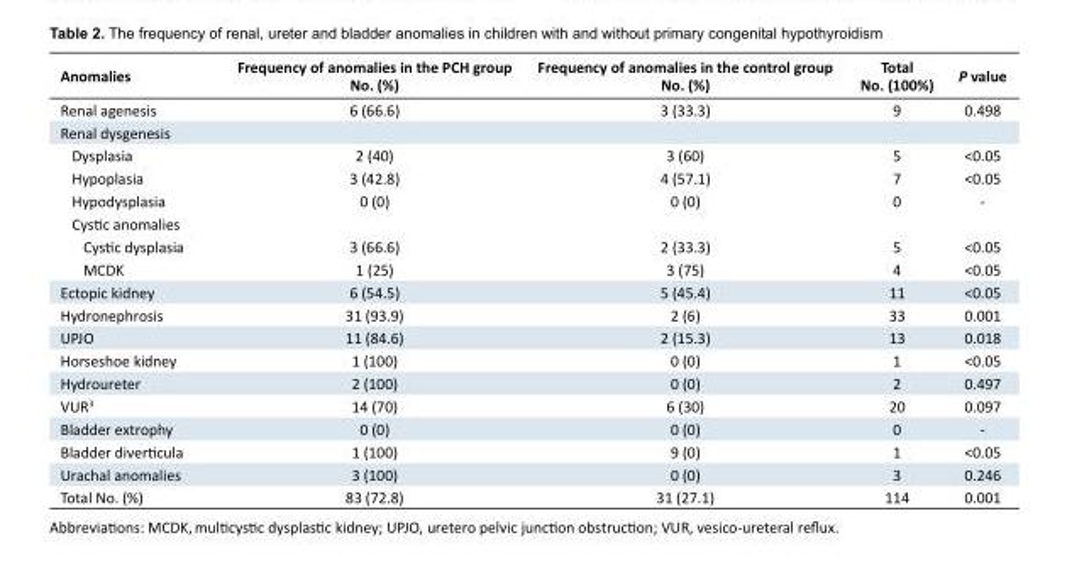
<table><tbody><tr><td>Anomalies</td><td>Frequency of anomalies in the PCH group No. (%)</td><td>Frequency of anomalies in the control group No. (%)</td><td>Total No. (100%)</td><td>P value</td></tr><tr><td>Renal agenesis</td><td>6 (66.6)</td><td>3 (33.3)</td><td>9</td><td>0.498</td></tr><tr><td colspan="5">Renal dysgenesis</td></tr><tr><td>Dysplasia</td><td>2 (40)</td><td>3 (60)</td><td>5</td><td>&lt;0.05</td></tr><tr><td>Hypoplasia</td><td>3 (42.8)</td><td>4 (57.1)</td><td>7</td><td>&lt;0.05</td></tr><tr><td>Hypodysplasia</td><td>0 (0)</td><td>0 (0)</td><td>0</td><td>-</td></tr><tr><td colspan="5">Cystic anomalies</td></tr><tr><td>Cystic dysplasia</td><td>3 (66.6)</td><td>2 (33.3)</td><td>5</td><td>&lt;0.05</td></tr><tr><td>MCDK</td><td>1 (25)</td><td>3 (75)</td><td>4</td><td>&lt;0.05</td></tr><tr><td>Ectopic kidney</td><td>6 (54.5)</td><td>5 (45.4)</td><td>11</td><td>&lt;0.05</td></tr><tr><td>Hydronephrosis</td><td>31 (93.9)</td><td>2 (6)</td><td>33</td><td>0.001</td></tr><tr><td>UPJO</td><td>11 (84.6)</td><td>2 (15.3)</td><td>13</td><td>0.018</td></tr><tr><td>Horseshoe kidney</td><td>1 (100)</td><td>0 (0)</td><td>1</td><td>&lt;0.05</td></tr><tr><td>Hydroureter</td><td>2 (100)</td><td>0 (0)</td><td>2</td><td>0.497</td></tr><tr><td>VUR<sup>3</sup></td><td>14 (70)</td><td>6 (30)</td><td>20</td><td>0.097</td></tr><tr><td>Bladder extrophy</td><td>0 (0)</td><td>0 (0)</td><td>0</td><td>-</td></tr><tr><td>Bladder diverticula</td><td>1 (100)</td><td>9 (0)</td><td>1</td><td>&lt;0.05</td></tr><tr><td>Urachal anomalies</td><td>3 (100)</td><td>0 (0)</td><td>3</td><td>0.246</td></tr><tr><td>Total No. (%)</td><td>83 (72.8)</td><td>31 (27.1)</td><td>114</td><td>0.001</td></tr></tbody></table>